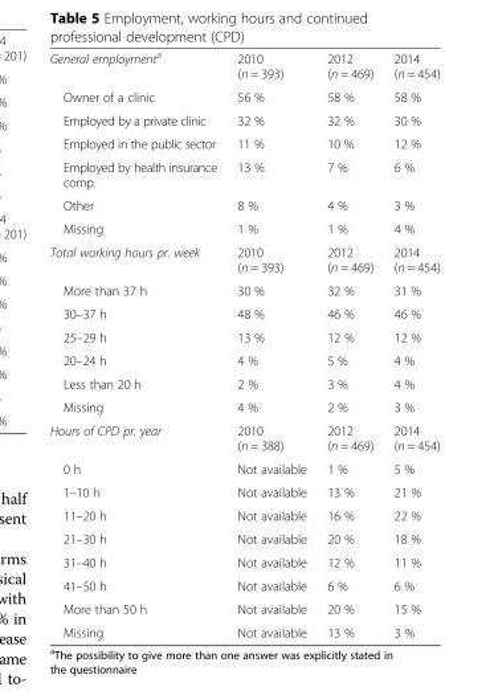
<table><tbody><tr><td>General employment<sup>a</sup></td><td>2010 (n = 393)</td><td>2012 (n = 469)</td><td>2014 (n = 454)</td></tr><tr><td>Owner of a clinic</td><td>56 %</td><td>58 %</td><td>58 %</td></tr><tr><td>Employed by a private clinic</td><td>32 %</td><td>32 %</td><td>30 %</td></tr><tr><td>Employed in the public sector</td><td>11 %</td><td>10 %</td><td>12 %</td></tr><tr><td>Employed by health insurance comp.</td><td>13 %</td><td>7 %</td><td>6 %</td></tr><tr><td>Other</td><td>8 %</td><td>4 %</td><td>3 %</td></tr><tr><td>Missing</td><td>1 %</td><td>1 %</td><td>4 %</td></tr><tr><td>Total working hours pr. week</td><td>2010 (n = 393)</td><td>2012 (n = 469)</td><td>2014 (n = 454)</td></tr><tr><td>More than 37 h</td><td>30 %</td><td>32 %</td><td>31 %</td></tr><tr><td>30–37 h</td><td>48 %</td><td>46 %</td><td>46 %</td></tr><tr><td>25–29 h</td><td>13 %</td><td>12 %</td><td>12 %</td></tr><tr><td>20–24 h</td><td>4 %</td><td>5 %</td><td>4 %</td></tr><tr><td>Less than 20 h</td><td>2 %</td><td>3 %</td><td>4 %</td></tr><tr><td>Missing</td><td>4 %</td><td>2 %</td><td>3 %</td></tr><tr><td>Hours of CPD pr. year</td><td>2010 (n = 388)</td><td>2012 (n = 469)</td><td>2014 (n = 454)</td></tr><tr><td>0 h</td><td>Not available</td><td>1 %</td><td>5 %</td></tr><tr><td>1–10 h</td><td>Not available</td><td>13 %</td><td>21 %</td></tr><tr><td>11–20 h</td><td>Not available</td><td>16 %</td><td>22 %</td></tr><tr><td>21–30 h</td><td>Not available</td><td>20 %</td><td>18 %</td></tr><tr><td>31–40 h</td><td>Not available</td><td>12 %</td><td>11 %</td></tr><tr><td>41–50 h</td><td>Not available</td><td>6 %</td><td>6 %</td></tr><tr><td>More than 50 h</td><td>Not available</td><td>20 %</td><td>15 %</td></tr><tr><td>Missing</td><td>Not available</td><td>13 %</td><td>3 %</td></tr></tbody></table>